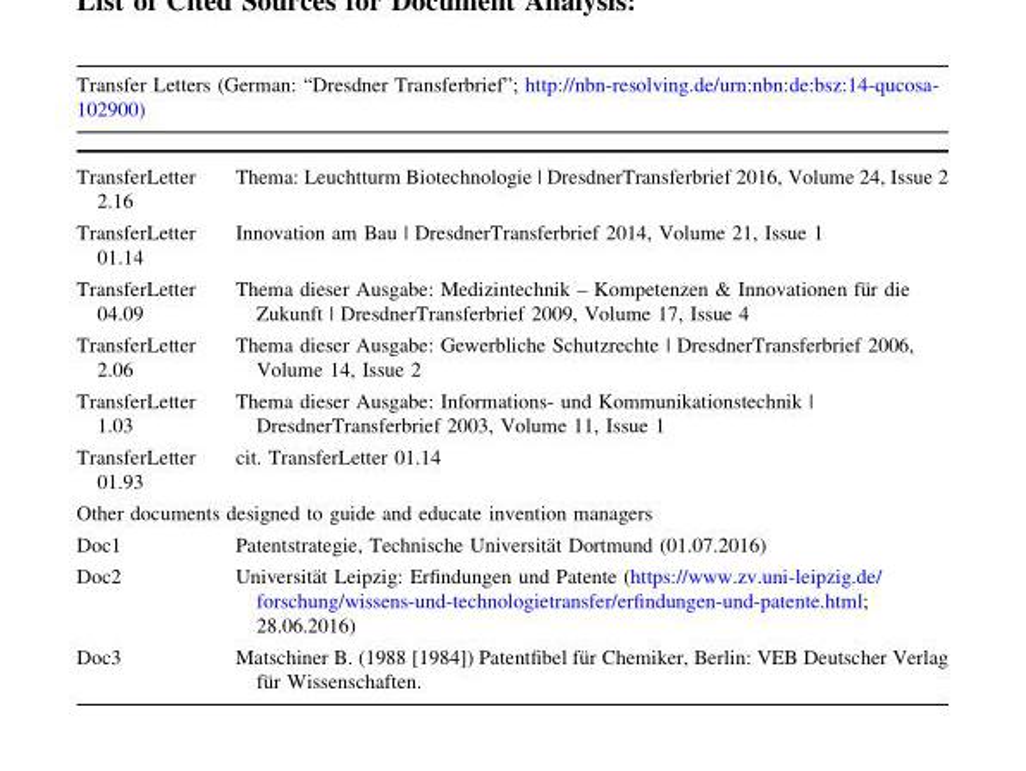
<table><thead><tr><td colspan="2">Transfer Letters (German: “Dresdner Transferbrief”; http://nbn-resolving.de/urn:nbn:de:bsz:14-qucosa- 102900)</td></tr><tr><td>TransferLetter 2.16</td><td>Thema: Leuchtturm Biotechnologie | DresdnerTransferbrief 2016, Volume 24, Issue 2</td></tr></thead><tbody><tr><td>TransferLetter 01.14</td><td>Innovation am Bau | DresdnerTransferbrief 2014, Volume 21, Issue 1</td></tr><tr><td>TransferLetter 04.09</td><td>Thema dieser Ausgabe: Medizintechnik – Kompetenzen &amp; Innovationen fu¨r die Zukunft | DresdnerTransferbrief 2009, Volume 17, Issue 4</td></tr><tr><td>TransferLetter 2.06</td><td>Thema dieser Ausgabe: Gewerbliche Schutzrechte | DresdnerTransferbrief 2006, Volume 14, Issue 2</td></tr><tr><td>TransferLetter 1.03</td><td>Thema dieser Ausgabe: Informations- und Kommunikationstechnik | DresdnerTransferbrief 2003, Volume 11, Issue 1</td></tr><tr><td>TransferLetter 01.93</td><td>cit. TransferLetter 01.14</td></tr><tr><td colspan="2">Other documents designed to guide and educate invention managers</td></tr><tr><td>Doc1</td><td>Patentstrategie, Technische Universita¨t Dortmund (01.07.2016)</td></tr><tr><td>Doc2</td><td>Universita¨t Leipzig: Erfindungen und Patente (https://www.zv.uni-leipzig.de/ forschung/wissens-und-technologietransfer/erfindungen-und-patente.html; 28.06.2016)</td></tr><tr><td>Doc3</td><td>Matschiner B. (1988 [1984]) Patentfibel fu¨r Chemiker, Berlin: VEB Deutscher Verlag fu¨r Wissenschaften.</td></tr></tbody></table>